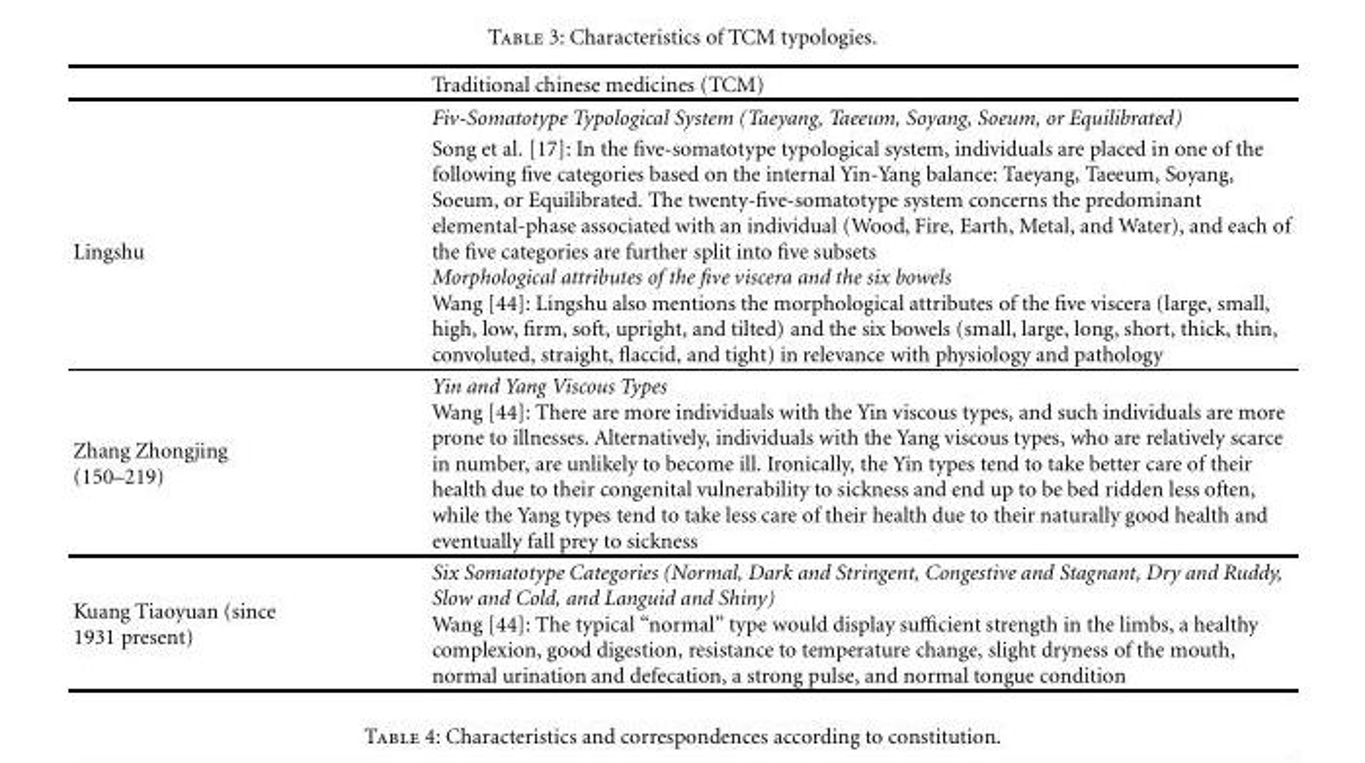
<table><thead><tr><td></td><td>Traditional chinese medicines (TCM)</td></tr></thead><tbody><tr><td></td><td>Fiv-Somatotype Typological System (Taeyang, Taeeum, Soyang, Soeum, or Equilibrated)</td></tr><tr><td>Lingshu</td><td>Song et al. [17]: In the five-somatotype typological system, individuals are placed in one of the following five categories based on the internal Yin-Yang balance: Taeyang, Taeeum, Soyang, Soeum, or Equilibrated. The twenty-five-somatotype system concerns the predominant elemental-phase associated with an individual (Wood, Fire, Earth, Metal, and Water), and each of the five categories are further split into five subsets Morphological attributes of the five viscera and the six bowels Wang [44]: Lingshu also mentions the morphological attributes of the five viscera (large, small, high, low, firm, soft, upright, and tilted) and the six bowels (small, large, long, short, thick, thin, convoluted, straight, flaccid, and tight) in relevance with physiology and pathology</td></tr><tr><td>Zhang Zhongjing (150–219)</td><td>Yin and Yang Viscous Types Wang [44]: There are more individuals with the Yin viscous types, and such individuals are more prone to illnesses. Alternatively, individuals with the Yang viscous types, who are relatively scarce in number, are unlikely to become ill. Ironically, the Yin types tend to take better care of their health due to their congenital vulnerability to sickness and end up to be bed ridden less often, while the Yang types tend to take less care of their health due to their naturally good health and eventually fall prey to sickness</td></tr><tr><td>Kuang Tiaoyuan (since 1931 present)</td><td>Six Somatotype Categories (Normal, Dark and Stringent, Congestive and Stagnant, Dry and Ruddy, Slow and Cold, and Languid and Shiny) Wang [44]: The typical “normal” type would display sufficient strength in the limbs, a healthy complexion, good digestion, resistance to temperature change, slight dryness of the mouth, normal urination and defecation, a strong pulse, and normal tongue condition</td></tr></tbody></table>